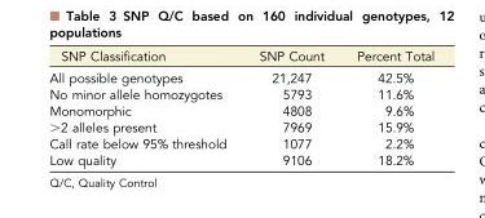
<table><thead><tr><td>SNP Classification</td><td>SNP Count</td><td>Percent Total</td></tr></thead><tbody><tr><td>All possible genotypes</td><td>21,247</td><td>42.5%</td></tr><tr><td>No minor allele homozygotes</td><td>5793</td><td>11.6%</td></tr><tr><td>Monomorphic</td><td>4808</td><td>9.6%</td></tr><tr><td>&gt;2 alleles present</td><td>7969</td><td>15.9%</td></tr><tr><td>Call rate below 95% threshold</td><td>1077</td><td>2.2%</td></tr><tr><td>Low quality</td><td>9106</td><td>18.2%</td></tr></tbody></table>